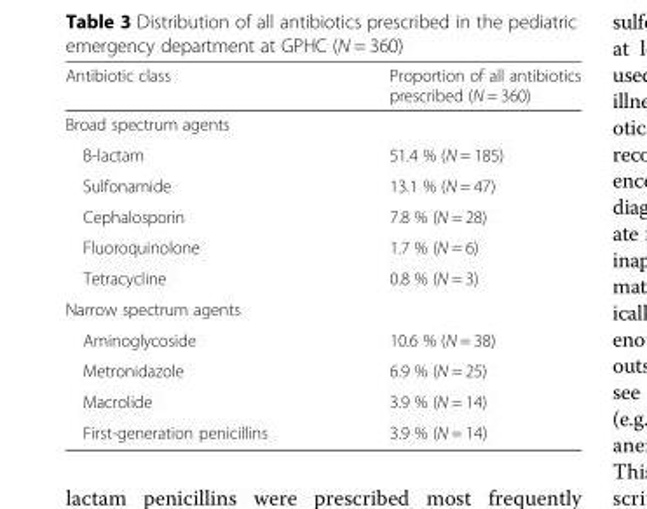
<table><thead><tr><td>Antibiotic class</td><td>Proportion of all antibiotics prescribed (N = 360)</td></tr></thead><tbody><tr><td colspan="2">Broad spectrum agents</td></tr><tr><td>B-lactam</td><td>51.4 % (N = 185)</td></tr><tr><td>Sulfonamide</td><td>13.1 % (N = 47)</td></tr><tr><td>Cephalosporin</td><td>7.8 % (N = 28)</td></tr><tr><td>Fluoroquinolone</td><td>1.7 % (N = 6)</td></tr><tr><td>Tetracycline</td><td>0.8 % (N = 3)</td></tr><tr><td colspan="2">Narrow spectrum agents</td></tr><tr><td>Aminoglycoside</td><td>10.6 % (N = 38)</td></tr><tr><td>Metronidazole</td><td>6.9 % (N = 25)</td></tr><tr><td>Macrolide</td><td>3.9 % (N = 14)</td></tr><tr><td>First-generation penicillins</td><td>3.9 % (N = 14)</td></tr></tbody></table>